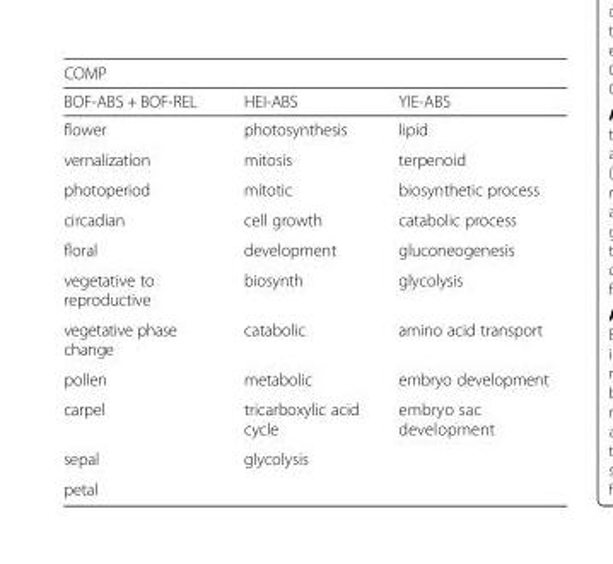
<table><thead><tr><td colspan="3">COMP</td></tr><tr><td>BOF-ABS + BOF-REL</td><td>HEI-ABS</td><td>YIE-ABS</td></tr></thead><tbody><tr><td>flower</td><td>photosynthesis</td><td>lipid</td></tr><tr><td>vernalization</td><td>mitosis</td><td>terpenoid</td></tr><tr><td>photoperiod</td><td>mitotic</td><td>biosynthetic process</td></tr><tr><td>circadian</td><td>cell growth</td><td>catabolic process</td></tr><tr><td>floral</td><td>development</td><td>gluconeogenesis</td></tr><tr><td>vegetative to reproductive</td><td>biosynth</td><td>glycolysis</td></tr><tr><td>vegetative phase change</td><td>catabolic</td><td>amino acid transport</td></tr><tr><td>pollen</td><td>metabolic</td><td>embryo development</td></tr><tr><td>carpel</td><td>tricarboxylic acid cycle</td><td>embryo sac development</td></tr><tr><td>sepal</td><td>glycolysis</td><td></td></tr><tr><td>petal</td><td></td><td></td></tr></tbody></table>